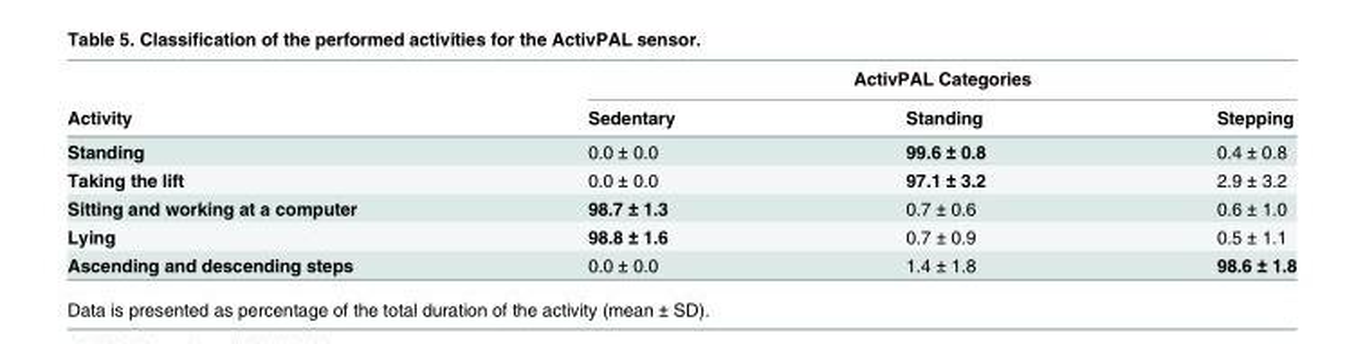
<table><thead><tr><td rowspan="2">Activity</td><td colspan="3">ActivPAL Categories</td></tr><tr><td>Sedentary</td><td>Standing</td><td>Stepping</td></tr></thead><tbody><tr><td>Standing</td><td>0.0 ± 0.0</td><td>99.6 ± 0.8</td><td>0.4 ± 0.8</td></tr><tr><td>Taking the lift</td><td>0.0 ± 0.0</td><td>97.1 ± 3.2</td><td>2.9 ± 3.2</td></tr><tr><td>Sitting and working at a computer</td><td>98.7 ± 1.3</td><td>0.7 ± 0.6</td><td>0.6 ± 1.0</td></tr><tr><td>Lying</td><td>98.8 ± 1.6</td><td>0.7 ± 0.9</td><td>0.5 ± 1.1</td></tr><tr><td>Ascending and descending steps</td><td>0.0 ± 0.0</td><td>1.4 ± 1.8</td><td>98.6 ± 1.8</td></tr></tbody></table>